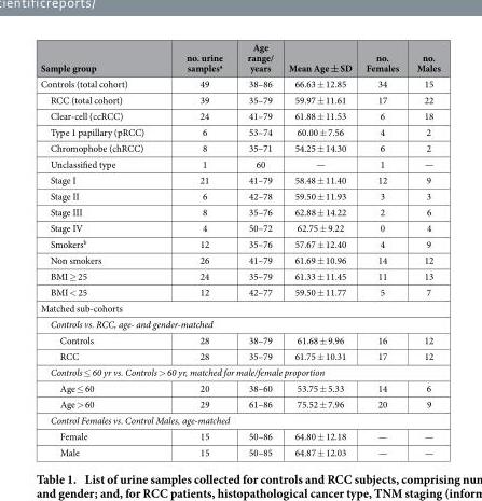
<table><thead><tr><td>Sample group</td><td>no. urine samples<sup>a</sup></td><td>Age range/ years</td><td>Mean Age ± SD</td><td>no. Females</td><td>no. Males</td></tr></thead><tbody><tr><td>Controls (total cohort)</td><td>49</td><td>38–86</td><td>66.63 ± 12.85</td><td>34</td><td>15</td></tr><tr><td>RCC (total cohort)</td><td>39</td><td>35–79</td><td>59.97 ± 11.61</td><td>17</td><td>22</td></tr><tr><td>Clear-cell (ccRCC)</td><td>24</td><td>41–79</td><td>61.88 ± 11.53</td><td>6</td><td>18</td></tr><tr><td>Type 1 papillary (pRCC)</td><td>6</td><td>53–74</td><td>60.00 ± 7.56</td><td>4</td><td>2</td></tr><tr><td>Chromophobe (chRCC)</td><td>8</td><td>35–71</td><td>54.25 ± 14.30</td><td>6</td><td>2</td></tr><tr><td>Unclassified type</td><td>1</td><td>60</td><td>—</td><td>1</td><td>—</td></tr><tr><td>Stage I</td><td>21</td><td>41–79</td><td>58.48 ± 11.40</td><td>12</td><td>9</td></tr><tr><td>Stage II</td><td>6</td><td>42–78</td><td>59.50 ± 11.93</td><td>3</td><td>3</td></tr><tr><td>Stage III</td><td>8</td><td>35–76</td><td>62.88 ± 14.22</td><td>2</td><td>6</td></tr><tr><td>Stage IV</td><td>4</td><td>50–72</td><td>62.75 ± 9.22</td><td>0</td><td>4</td></tr><tr><td>Smokers<sup>b</sup></td><td>12</td><td>35–76</td><td>57.67 ± 12.40</td><td>4</td><td>9</td></tr><tr><td>Non smokers</td><td>26</td><td>41–79</td><td>61.69 ± 10.96</td><td>14</td><td>12</td></tr><tr><td>BMI ≥ 25</td><td>24</td><td>35–79</td><td>61.33 ± 11.45</td><td>11</td><td>13</td></tr><tr><td>BMI &lt; 25</td><td>12</td><td>42–77</td><td>59.50 ± 11.77</td><td>5</td><td>7</td></tr><tr><td colspan="6">Matched sub-cohorts</td></tr><tr><td colspan="6">Controls vs. RCC, age- and gender-matched</td></tr><tr><td>Controls</td><td>28</td><td>38–79</td><td>61.68 ± 9.96</td><td>16</td><td>12</td></tr><tr><td>RCC</td><td>28</td><td>35–79</td><td>61.75 ± 10.31</td><td>17</td><td>12</td></tr><tr><td colspan="6">Controls ≤ 60 yr vs. Controls &gt; 60 yr, matched for male/female proportion</td></tr><tr><td>Age ≤ 60</td><td>20</td><td>38–60</td><td>53.75 ± 5.33</td><td>14</td><td>6</td></tr><tr><td>Age &gt; 60</td><td>29</td><td>61–86</td><td>75.52 ± 7.96</td><td>20</td><td>9</td></tr><tr><td colspan="6">Control Females vs. Control Males, age-matched</td></tr><tr><td>Female</td><td>15</td><td>50–86</td><td>64.80 ± 12.18</td><td>—</td><td>—</td></tr><tr><td>Male</td><td>15</td><td>50–85</td><td>64.87 ± 12.03</td><td>—</td><td>—</td></tr></tbody></table>